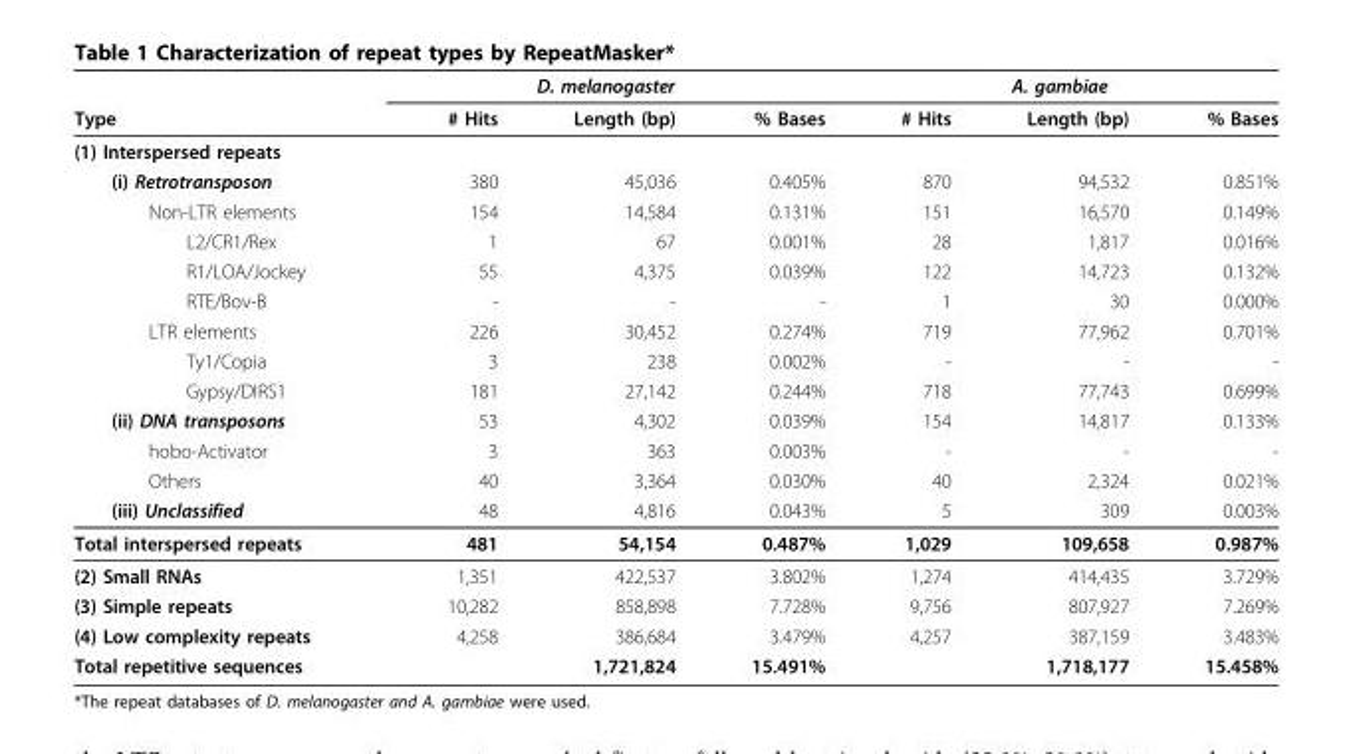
<table><thead><tr><td rowspan="2">Type</td><td colspan="3">D. melanogaster</td><td colspan="3">A. gambiae</td></tr><tr><td># Hits</td><td>Length (bp)</td><td>% Bases</td><td># Hits</td><td>Length (bp)</td><td>% Bases</td></tr></thead><tbody><tr><td colspan="7">(1) Interspersed repeats</td></tr><tr><td>(i) Retrotransposon</td><td>380</td><td>45,036</td><td>0.405%</td><td>870</td><td>94,532</td><td>0.851%</td></tr><tr><td>Non-LTR elements</td><td>154</td><td>14,584</td><td>0.131%</td><td>151</td><td>16,570</td><td>0.149%</td></tr><tr><td>L2/CR1/Rex</td><td>1</td><td>67</td><td>0.001%</td><td>28</td><td>1,817</td><td>0.016%</td></tr><tr><td>R1/LOA/Jockey</td><td>55</td><td>4,375</td><td>0.039%</td><td>122</td><td>14,723</td><td>0.132%</td></tr><tr><td>RTE/Bov-B</td><td>-</td><td>-</td><td>-</td><td>1</td><td>30</td><td>0.000%</td></tr><tr><td>LTR elements</td><td>226</td><td>30,452</td><td>0.274%</td><td>719</td><td>77,962</td><td>0.701%</td></tr><tr><td>Ty1/Copia</td><td>3</td><td>238</td><td>0.002%</td><td>-</td><td>-</td><td>-</td></tr><tr><td>Gypsy/DIRS1</td><td>181</td><td>27,142</td><td>0.244%</td><td>718</td><td>77,743</td><td>0.699%</td></tr><tr><td>(ii) DNA transposons</td><td>53</td><td>4,302</td><td>0.039%</td><td>154</td><td>14,817</td><td>0.133%</td></tr><tr><td>hobo-Activator</td><td>3</td><td>363</td><td>0.003%</td><td>-</td><td>-</td><td>-</td></tr><tr><td>Others</td><td>40</td><td>3,364</td><td>0.030%</td><td>40</td><td>2,324</td><td>0.021%</td></tr><tr><td>(iii) Unclassified</td><td>48</td><td>4,816</td><td>0.043%</td><td>5</td><td>309</td><td>0.003%</td></tr><tr><td>Total interspersed repeats</td><td>481</td><td>54,154</td><td>0.487%</td><td>1,029</td><td>109,658</td><td>0.987%</td></tr><tr><td>(2) Small RNAs</td><td>1,351</td><td>422,537</td><td>3.802%</td><td>1,274</td><td>414,435</td><td>3.729%</td></tr><tr><td>(3) Simple repeats</td><td>10,282</td><td>858,898</td><td>7.728%</td><td>9,756</td><td>807,927</td><td>7.269%</td></tr><tr><td>(4) Low complexity repeats</td><td>4,258</td><td>386,684</td><td>3.479%</td><td>4,257</td><td>387,159</td><td>3.483%</td></tr><tr><td>Total repetitive sequences</td><td></td><td>1,721,824</td><td>15.491%</td><td></td><td>1,718,177</td><td>15.458%</td></tr></tbody></table>